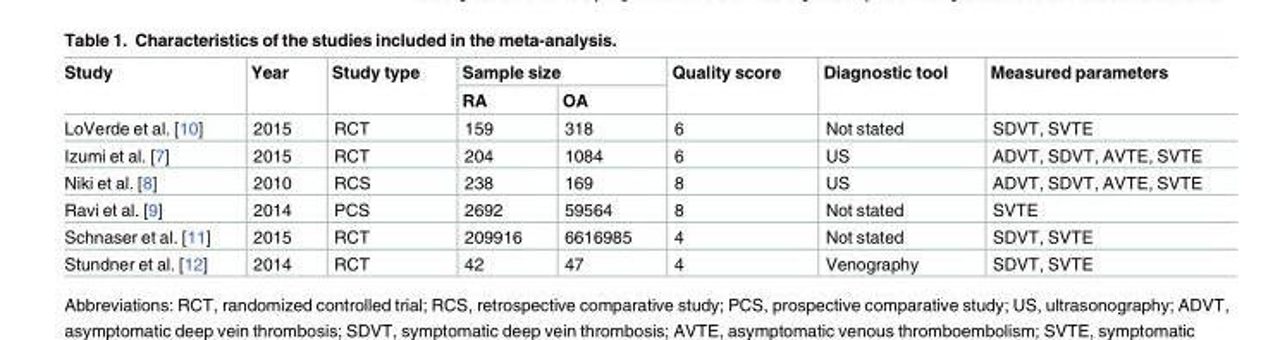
<table><thead><tr><td rowspan="2">Study</td><td rowspan="2">Year</td><td rowspan="2">Study type</td><td colspan="2">Sample size</td><td rowspan="2">Quality score</td><td rowspan="2">Diagnostic tool</td><td rowspan="2">Measured parameters</td></tr><tr><td>RA</td><td>OA</td></tr></thead><tbody><tr><td>LoVerde et al. [10]</td><td>2015</td><td>RCT</td><td>159</td><td>318</td><td>6</td><td>Not stated</td><td>SDVT, SVTE</td></tr><tr><td>Izumi et al. [7]</td><td>2015</td><td>RCT</td><td>204</td><td>1084</td><td>6</td><td>US</td><td>ADVT, SDVT, AVTE, SVTE</td></tr><tr><td>Niki et al. [8]</td><td>2010</td><td>RCS</td><td>238</td><td>169</td><td>8</td><td>US</td><td>ADVT, SDVT, AVTE, SVTE</td></tr><tr><td>Ravi et al. [9]</td><td>2014</td><td>PCS</td><td>2692</td><td>59564</td><td>8</td><td>Not stated</td><td>SVTE</td></tr><tr><td>Schnaser et al. [11]</td><td>2015</td><td>RCT</td><td>209916</td><td>6616985</td><td>4</td><td>Not stated</td><td>SDVT, SVTE</td></tr><tr><td>Stundner et al. [12]</td><td>2014</td><td>RCT</td><td>42</td><td>47</td><td>4</td><td>Venography</td><td>SDVT, SVTE</td></tr></tbody></table>